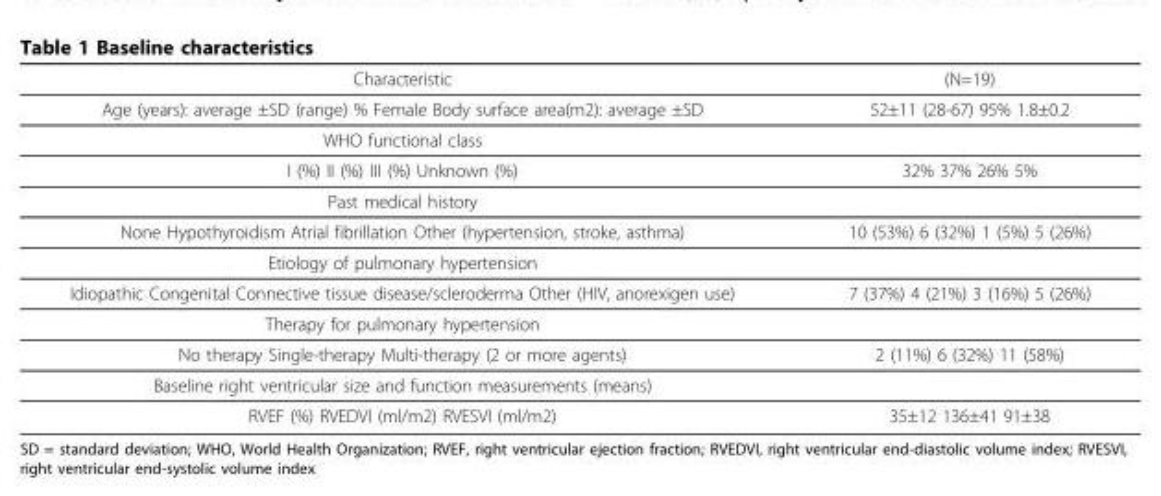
<table><thead><tr><td>Characteristic</td><td>(N=19)</td></tr></thead><tbody><tr><td>Age (years): average ±SD (range) % Female Body surface area(m2): average ±SD</td><td>52±11 (28-67) 95% 1.8±0.2</td></tr><tr><td colspan="2">WHO functional class</td></tr><tr><td>I (%) II (%) III (%) Unknown (%)</td><td>32% 37% 26% 5%</td></tr><tr><td colspan="2">Past medical history</td></tr><tr><td>None Hypothyroidism Atrial fibrillation Other (hypertension, stroke, asthma)</td><td>10 (53%) 6 (32%) 1 (5%) 5 (26%)</td></tr><tr><td colspan="2">Etiology of pulmonary hypertension</td></tr><tr><td>Idiopathic Congenital Connective tissue disease/scleroderma Other (HIV, anorexigen use)</td><td>7 (37%) 4 (21%) 3 (16%) 5 (26%)</td></tr><tr><td colspan="2">Therapy for pulmonary hypertension</td></tr><tr><td>No therapy Single-therapy Multi-therapy (2 or more agents)</td><td>2 (11%) 6 (32%) 11 (58%)</td></tr><tr><td colspan="2">Baseline right ventricular size and function measurements (means)</td></tr><tr><td>RVEF (%) RVEDVI (ml/m2) RVESVI (ml/m2)</td><td>35±12 136±41 91±38</td></tr></tbody></table>